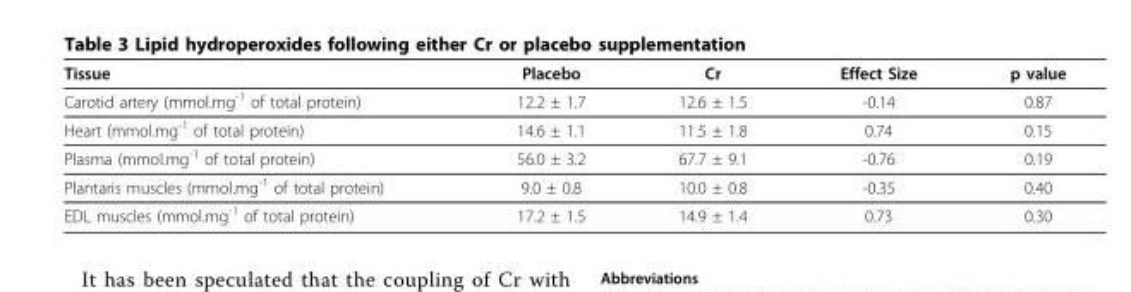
<table><thead><tr><td>Tissue</td><td>Placebo</td><td>Cr</td><td>Effect Size</td><td>p value</td></tr></thead><tbody><tr><td>Carotid artery (mmol.mg<sup>-1</sup> of total protein)</td><td>12.2 ± 1.7</td><td>12.6 ± 1.5</td><td>-0.14</td><td>0.87</td></tr><tr><td>Heart (mmol.mg<sup>-1</sup> of total protein)</td><td>14.6 ± 1.1</td><td>11.5 ± 1.8</td><td>0.74</td><td>0.15</td></tr><tr><td>Plasma (mmol.mg<sup>-1</sup> of total protein)</td><td>56.0 ± 3.2</td><td>67.7 ± 9.1</td><td>-0.76</td><td>0.19</td></tr><tr><td>Plantaris muscles (mmol.mg<sup>-1</sup> of total protein)</td><td>9.0 ± 0.8</td><td>10.0 ± 0.8</td><td>-0.35</td><td>0.40</td></tr><tr><td>EDL muscles (mmol.mg<sup>-1</sup> of total protein)</td><td>17.2 ± 1.5</td><td>14.9 ± 1.4</td><td>0.73</td><td>0.30</td></tr></tbody></table>